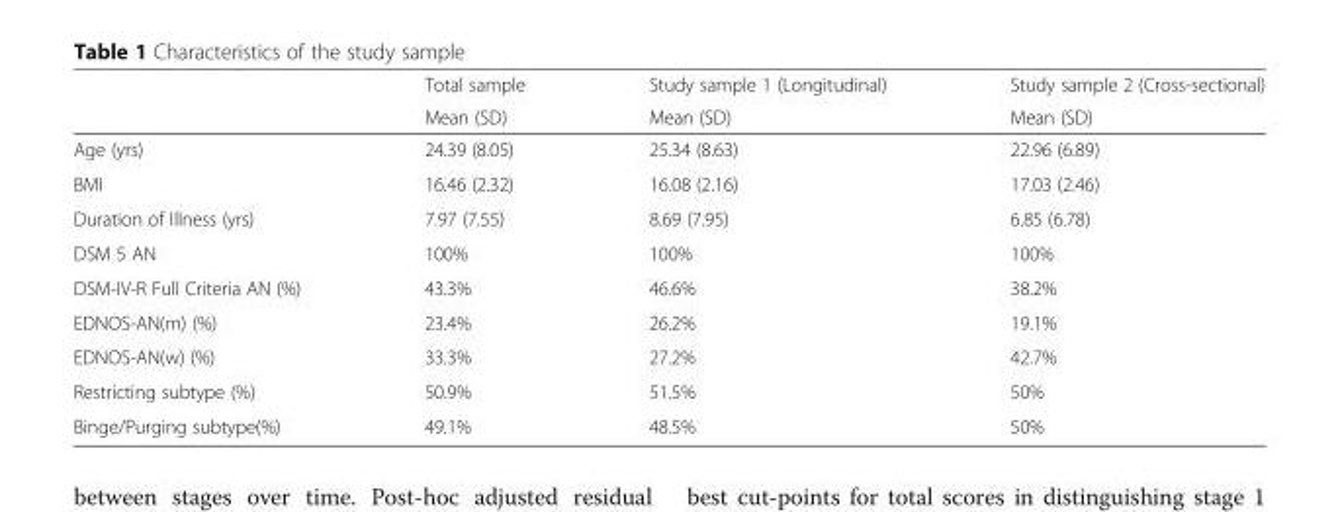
<table><thead><tr><td rowspan="2"></td><td rowspan="2">Total sample Mean (SD)</td><td rowspan="2">Study sample 1 (Longitudinal) Mean (SD)</td><td rowspan="2">Study sample 2 (Cross-sectional) Mean (SD)</td></tr><tr></tr></thead><tbody><tr><td>Age (yrs)</td><td>24.39 (8.05)</td><td>25.34 (8.63)</td><td>22.96 (6.89)</td></tr><tr><td>BMI</td><td>16.46 (2.32)</td><td>16.08 (2.16)</td><td>17.03 (2.46)</td></tr><tr><td>Duration of Illness (yrs)</td><td>7.97 (7.55)</td><td>8.69 (7.95)</td><td>6.85 (6.78)</td></tr><tr><td>DSM 5 AN</td><td>100%</td><td>100%</td><td>100%</td></tr><tr><td>DSM-IV-R Full Criteria AN (%)</td><td>43.3%</td><td>46.6%</td><td>38.2%</td></tr><tr><td>EDNOS-AN(m) (%)</td><td>23.4%</td><td>26.2%</td><td>19.1%</td></tr><tr><td>EDNOS-AN(w) (%)</td><td>33.3%</td><td>27.2%</td><td>42.7%</td></tr><tr><td>Restricting subtype (%)</td><td>50.9%</td><td>51.5%</td><td>50%</td></tr><tr><td>Binge/Purging subtype(%)</td><td>49.1%</td><td>48.5%</td><td>50%</td></tr></tbody></table>